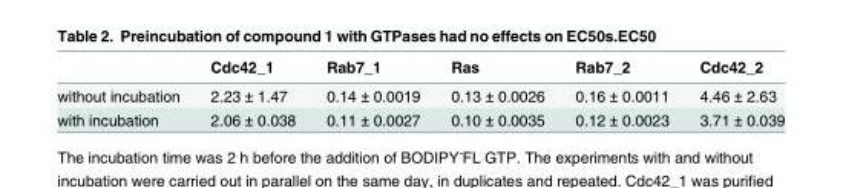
<table><thead><tr><td></td><td>Cdc42_1</td><td>Rab7_1</td><td>Ras</td><td>Rab7_2</td><td>Cdc42_2</td></tr></thead><tbody><tr><td>without incubation</td><td>2.23 ± 1.47</td><td>0.14 ± 0.0019</td><td>0.13 ± 0.0026</td><td>0.16 ± 0.0011</td><td>4.46 ± 2.63</td></tr><tr><td>with incubation</td><td>2.06 ± 0.038</td><td>0.11 ± 0.0027</td><td>0.10 ± 0.0035</td><td>0.12 ± 0.0023</td><td>3.71 ± 0.039</td></tr></tbody></table>